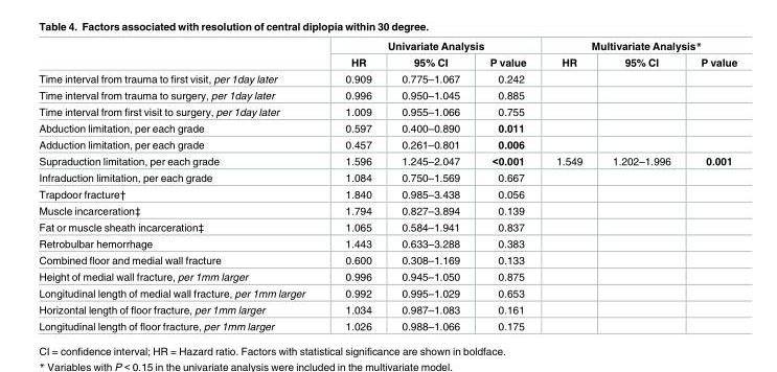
<table><thead><tr><td rowspan="2"></td><td colspan="3">Univariate Analysis</td><td colspan="3">Multivariate Analysis*</td></tr><tr><td>HR</td><td>95% CI</td><td>P value</td><td>HR</td><td>95% CI</td><td>P value</td></tr></thead><tbody><tr><td>Time interval from trauma to first visit, per 1day later</td><td>0.909</td><td>0.775–1.067</td><td>0.242</td><td></td><td></td><td></td></tr><tr><td>Time interval from trauma to surgery, per 1day later</td><td>0.996</td><td>0.950–1.045</td><td>0.885</td><td></td><td></td><td></td></tr><tr><td>Time interval from first visit to surgery, per 1day later</td><td>1.009</td><td>0.955–1.066</td><td>0.755</td><td></td><td></td><td></td></tr><tr><td>Abduction limitation, per each grade</td><td>0.597</td><td>0.400–0.890</td><td>0.011</td><td></td><td></td><td></td></tr><tr><td>Adduction limitation, per each grade</td><td>0.457</td><td>0.261–0.801</td><td>0.006</td><td></td><td></td><td></td></tr><tr><td>Supraduction limitation, per each grade</td><td>1.596</td><td>1.245–2.047</td><td>&lt;0.001</td><td>1.549</td><td>1.202–1.996</td><td>0.001</td></tr><tr><td>Infraduction limitation, per each grade</td><td>1.084</td><td>0.750–1.569</td><td>0.667</td><td></td><td></td><td></td></tr><tr><td>Trapdoor fracture†</td><td>1.840</td><td>0.985–3.438</td><td>0.056</td><td></td><td></td><td></td></tr><tr><td>Muscle incarceration‡</td><td>1.794</td><td>0.827–3.894</td><td>0.139</td><td></td><td></td><td></td></tr><tr><td>Fat or muscle sheath incarceration‡</td><td>1.065</td><td>0.584–1.941</td><td>0.837</td><td></td><td></td><td></td></tr><tr><td>Retrobulbar hemorrhage</td><td>1.443</td><td>0.633–3.288</td><td>0.383</td><td></td><td></td><td></td></tr><tr><td>Combined floor and medial wall fracture</td><td>0.600</td><td>0.308–1.169</td><td>0.133</td><td></td><td></td><td></td></tr><tr><td>Height of medial wall fracture, per 1mm larger</td><td>0.996</td><td>0.945–1.050</td><td>0.875</td><td></td><td></td><td></td></tr><tr><td>Longitudinal length of medial wall fracture, per 1mm larger</td><td>0.992</td><td>0.995–1.029</td><td>0.653</td><td></td><td></td><td></td></tr><tr><td>Horizontal length of floor fracture, per 1mm larger</td><td>1.034</td><td>0.987–1.083</td><td>0.161</td><td></td><td></td><td></td></tr><tr><td>Longitudinal length of floor fracture, per 1mm larger</td><td>1.026</td><td>0.988–1.066</td><td>0.175</td><td></td><td></td><td></td></tr></tbody></table>